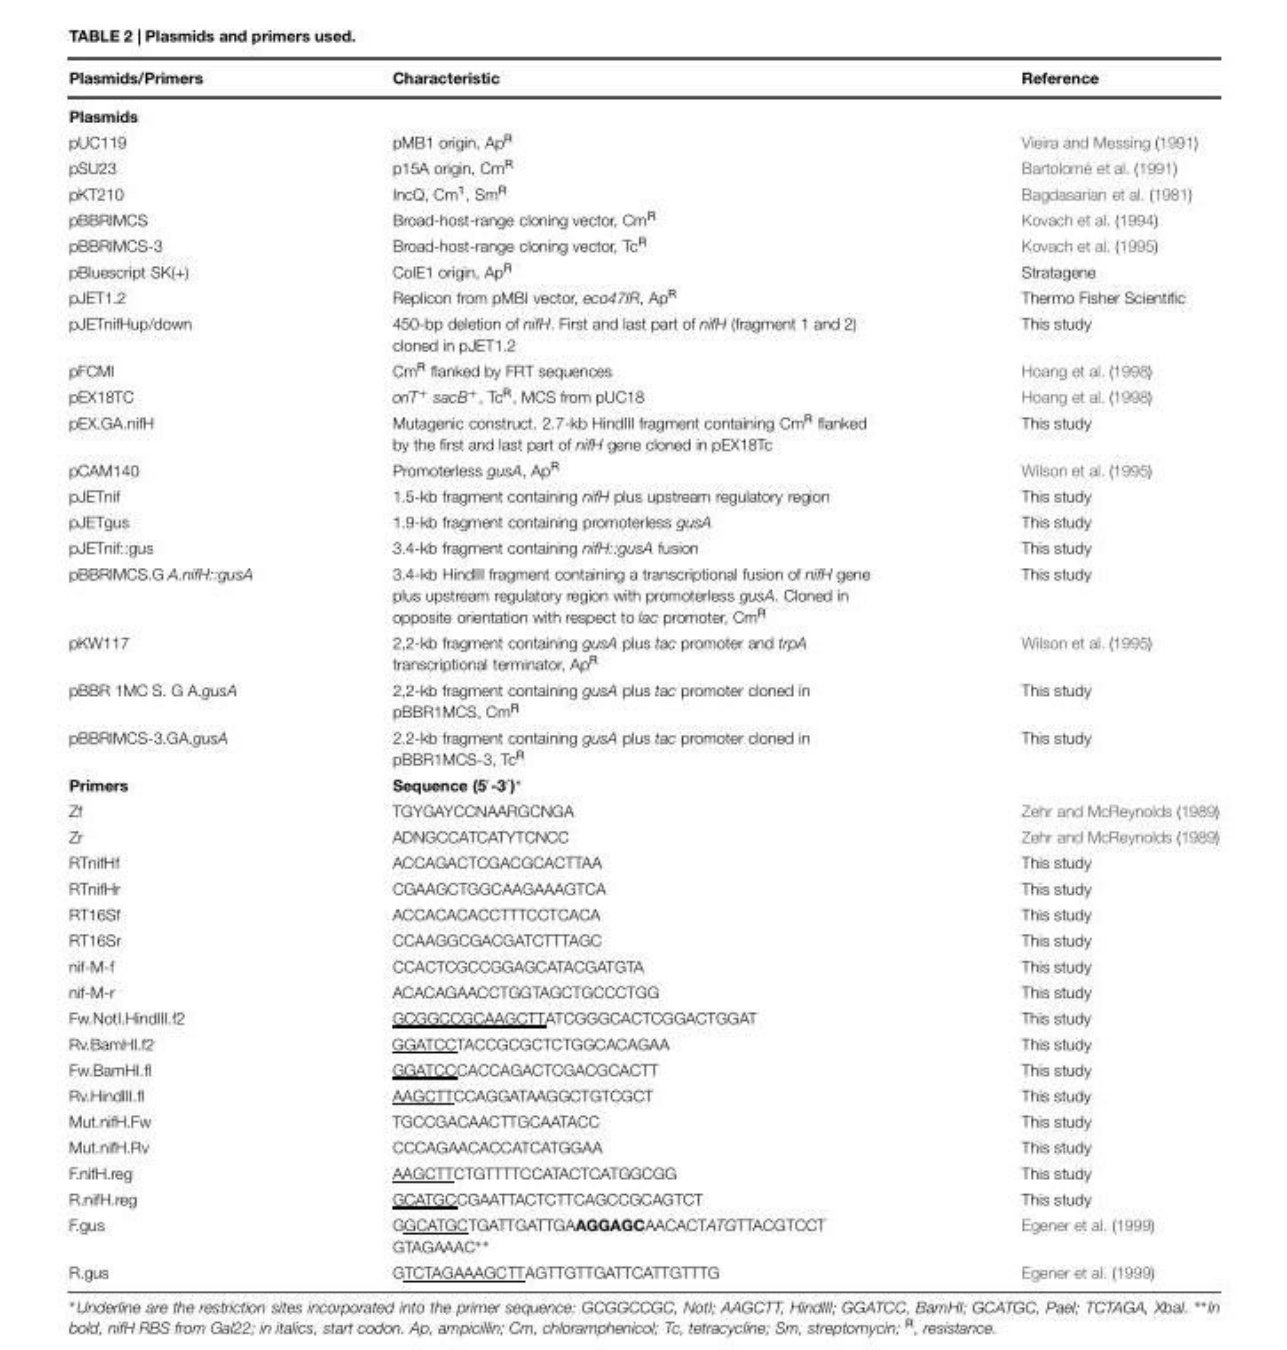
<table><thead><tr><td>Plasmids/Primers</td><td>Characteristic</td><td>Reference</td></tr></thead><tbody><tr><td colspan="3">Plasmids</td></tr><tr><td>pUC119</td><td>pMB1 origin, Ap<sup>R</sup></td><td>Vieira and Messing (1991)</td></tr><tr><td>pSU23</td><td>p15A origin, Cm<sup>R</sup></td><td>Bartolomé et al. (1991)</td></tr><tr><td>pKT210</td><td>IncQ, Cm<sup>1</sup>, Sm<sup>R</sup></td><td>Bagdasarian et al. (1981)</td></tr><tr><td>pBBRlMCS</td><td>Broad-host-range cloning vector, Cm<sup>R</sup></td><td>Kovach et al. (1994)</td></tr><tr><td>pBBRlMCS-3</td><td>Broad-host-range cloning vector, Tc<sup>R</sup></td><td>Kovach et al. (1995)</td></tr><tr><td>pBluescript SK(+)</td><td>ColE1 origin, Ap<sup>R</sup></td><td>Stratagene</td></tr><tr><td>pJET1.2</td><td>Replicon from pMBI vector, eco47IR, Ap<sup>R</sup></td><td>Thermo Fisher Scientific</td></tr><tr><td>pJETnifHup/down</td><td>450-bp deletion of nifH. First and last part of nifH (fragment 1 and 2) cloned in pJET1.2</td><td>This study</td></tr><tr><td>pFCMl</td><td>Cm<sup>R</sup> flanked by FRT sequences</td><td>Hoang et al. (1998)</td></tr><tr><td>pEX18TC</td><td>oriT<sup>+</sup> sacB<sup>+</sup>, Tc<sup>R</sup>, MCS from pUC18</td><td>Hoang et al. (1998)</td></tr><tr><td>pEX.GA.nifH</td><td>Mutagenic construct. 2.7-kb HindIII fragment containing Cm<sup>R</sup> flanked by the first and last part of nifH gene cloned in pEX18Tc</td><td>This study</td></tr><tr><td>pCAM140</td><td>Promoterless gusA, Ap<sup>R</sup></td><td>Wilson et al. (1995)</td></tr><tr><td>pJETnif</td><td>1.5-kb fragment containing nifH plus upstream regulatory region</td><td>This study</td></tr><tr><td>pJETgus</td><td>1.9-kb fragment containing promoterless gusA</td><td>This study</td></tr><tr><td>pJETnif::gus</td><td>3.4-kb fragment containing nifH::gusA fusion</td><td>This study</td></tr><tr><td>pBBRlMCS.G A.nifH::gusA</td><td>3.4-kb HindIII fragment containing a transcriptional fusion of nifH gene plus upstream regulatory region with promoterless gusA. Cloned in opposite orientation with respect to lac promoter, Cm<sup>R</sup></td><td>This study</td></tr><tr><td>pKW117</td><td>2,2-kb fragment containing gusA plus tac promoter and trpA transcriptional terminator, Ap<sup>R</sup></td><td>Wilson et al. (1995)</td></tr><tr><td>pBBR 1MC S. G A.gusA</td><td>2,2-kb fragment containing gusA plus tac promoter cloned in pBBR1MCS, Cm<sup>R</sup></td><td>This study</td></tr><tr><td>pBBRlMCS-3.GA.gusA</td><td>2.2-kb fragment containing gusA plus tac promoter cloned in pBBR1MCS-3, Tc<sup>R</sup></td><td>This study</td></tr><tr><td>Primers</td><td>Sequence (5′-3′)∗</td><td></td></tr><tr><td>Zf</td><td>TGYGAYCCNAARGCNGA</td><td>Zehr and McReynolds (1989)</td></tr><tr><td>Zr</td><td>ADNGCCATCATYTCNCC</td><td>Zehr and McReynolds (1989)</td></tr><tr><td>RTnifHf</td><td>ACCAGACTCGACGCACTTAA</td><td>This study</td></tr><tr><td>RTnifHr</td><td>CGAAGCTGGCAAGAAAGTCA</td><td>This study</td></tr><tr><td>RT16Sf</td><td>ACCACACACCTTTCCTCACA</td><td>This study</td></tr><tr><td>RT16Sr</td><td>CCAAGGCGACGATCTTTAGC</td><td>This study</td></tr><tr><td>nif-M-f</td><td>CCACTCGCCGGAGCATACGATGTA</td><td>This study</td></tr><tr><td>nif-M-r</td><td>ACACAGAACCTGGTAGCTGCCCTGG</td><td>This study</td></tr><tr><td>Fw.NotI.HindIII.f2</td><td>GCGGCCGCAAGCTTATCGGGCACTCGGACTGGAT</td><td>This study</td></tr><tr><td>Rv.BamHI.f2</td><td>GGATCCTACCGCGCTCTGGCACAGAA</td><td>This study</td></tr><tr><td>Fw.BamHI.fl</td><td>GGATCCCACCAGACTCGACGCACTT</td><td>This study</td></tr><tr><td>Rv.HindIII.fl</td><td>AAGCTTCCAGGATAAGGCTGTCGCT</td><td>This study</td></tr><tr><td>Mut.nifH.Fw</td><td>TGCCGACAACTTGCAATACC</td><td>This study</td></tr><tr><td>Mut.nifH.Rv</td><td>CCCAGAACACCATCATGGAA</td><td>This study</td></tr><tr><td>F.nifH.reg</td><td>AAGCTTCTGTTTTCCATACTCATGGCGG</td><td>This study</td></tr><tr><td>R.nifH.reg</td><td>GCATGCCGAATTACTCTTCAGCCGCAGTCT</td><td>This study</td></tr><tr><td>F.gus</td><td>GGCATGCTGATTGATTGAAGGAGCAACACTATGTTACGTCCT GTAGAAAC∗∗</td><td>Egener et al. (1999)</td></tr><tr><td>R.gus</td><td>GTCTAGAAAGCTTAGTTGTTGATTCATTGTTTG</td><td>Egener et al. (1999)</td></tr></tbody></table>